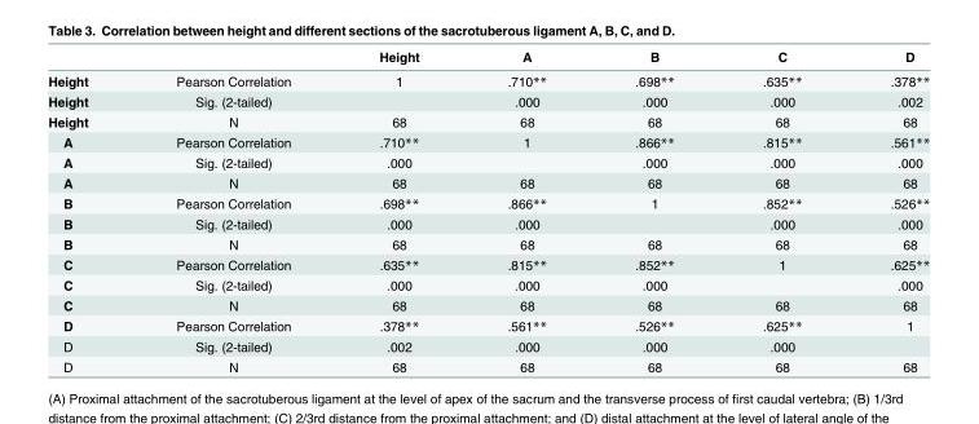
<table><thead><tr><td></td><td></td><td>Height</td><td>A</td><td>B</td><td>C</td><td>D</td></tr></thead><tbody><tr><td>Height</td><td>Pearson Correlation</td><td>1</td><td>.710**</td><td>.698**</td><td>.635**</td><td>.378**</td></tr><tr><td>Height</td><td>Sig. (2-tailed)</td><td></td><td>.000</td><td>.000</td><td>.000</td><td>.002</td></tr><tr><td>Height</td><td>N</td><td>68</td><td>68</td><td>68</td><td>68</td><td>68</td></tr><tr><td>A</td><td>Pearson Correlation</td><td>.710**</td><td>1</td><td>.866**</td><td>.815**</td><td>.561**</td></tr><tr><td>A</td><td>Sig. (2-tailed)</td><td>.000</td><td></td><td>.000</td><td>.000</td><td>.000</td></tr><tr><td>A</td><td>N</td><td>68</td><td>68</td><td>68</td><td>68</td><td>68</td></tr><tr><td>B</td><td>Pearson Correlation</td><td>.698**</td><td>.866**</td><td>1</td><td>.852**</td><td>.526**</td></tr><tr><td>B</td><td>Sig. (2-tailed)</td><td>.000</td><td>.000</td><td></td><td>.000</td><td>.000</td></tr><tr><td>B</td><td>N</td><td>68</td><td>68</td><td>68</td><td>68</td><td>68</td></tr><tr><td>C</td><td>Pearson Correlation</td><td>.635**</td><td>.815**</td><td>.852**</td><td>1</td><td>.625**</td></tr><tr><td>C</td><td>Sig. (2-tailed)</td><td>.000</td><td>.000</td><td>.000</td><td></td><td>.000</td></tr><tr><td>C</td><td>N</td><td>68</td><td>68</td><td>68</td><td>68</td><td>68</td></tr><tr><td>D</td><td>Pearson Correlation</td><td>.378**</td><td>.561**</td><td>.526**</td><td>.625**</td><td>1</td></tr><tr><td>D</td><td>Sig. (2-tailed)</td><td>.002</td><td>.000</td><td>.000</td><td>.000</td><td></td></tr><tr><td>D</td><td>N</td><td>68</td><td>68</td><td>68</td><td>68</td><td>68</td></tr></tbody></table>